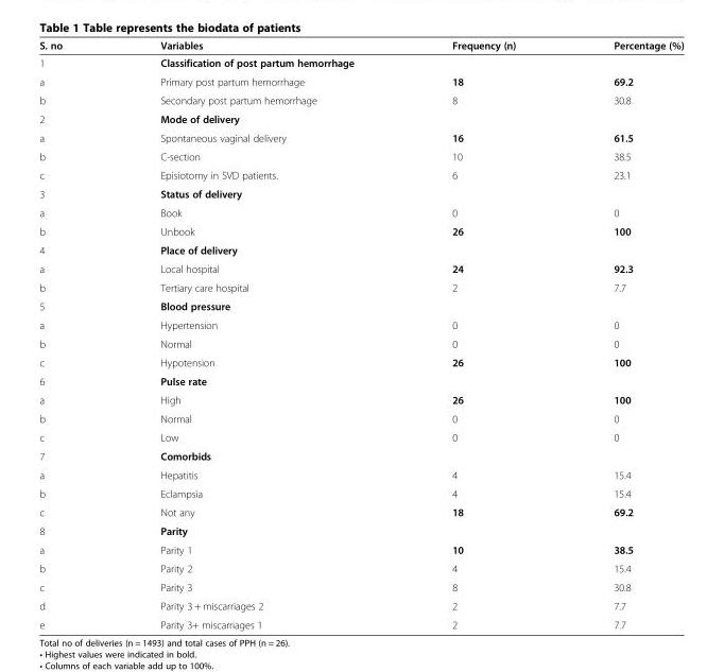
<table><thead><tr><td>S. no</td><td>Variables</td><td>Frequency (n)</td><td>Percentage (%)</td></tr></thead><tbody><tr><td>1</td><td>Classification of post partum hemorrhage</td><td></td><td></td></tr><tr><td>a</td><td>Primary post partum hemorrhage</td><td>18</td><td>69.2</td></tr><tr><td>b</td><td>Secondary post partum hemorrhage</td><td>8</td><td>30.8</td></tr><tr><td>2</td><td>Mode of delivery</td><td></td><td></td></tr><tr><td>a</td><td>Spontaneous vaginal delivery</td><td>16</td><td>61.5</td></tr><tr><td>b</td><td>C-section</td><td>10</td><td>38.5</td></tr><tr><td>c</td><td>Episiotomy in SVD patients.</td><td>6</td><td>23.1</td></tr><tr><td>3</td><td>Status of delivery</td><td></td><td></td></tr><tr><td>a</td><td>Book</td><td>0</td><td>0</td></tr><tr><td>b</td><td>Unbook</td><td>26</td><td>100</td></tr><tr><td>4</td><td>Place of delivery</td><td></td><td></td></tr><tr><td>a</td><td>Local hospital</td><td>24</td><td>92.3</td></tr><tr><td>b</td><td>Tertiary care hospital</td><td>2</td><td>7.7</td></tr><tr><td>5</td><td>Blood pressure</td><td></td><td></td></tr><tr><td>a</td><td>Hypertension</td><td>0</td><td>0</td></tr><tr><td>b</td><td>Normal</td><td>0</td><td>0</td></tr><tr><td>c</td><td>Hypotension</td><td>26</td><td>100</td></tr><tr><td>6</td><td>Pulse rate</td><td></td><td></td></tr><tr><td>a</td><td>High</td><td>26</td><td>100</td></tr><tr><td>b</td><td>Normal</td><td>0</td><td>0</td></tr><tr><td>c</td><td>Low</td><td>0</td><td>0</td></tr><tr><td>7</td><td>Comorbids</td><td></td><td></td></tr><tr><td>a</td><td>Hepatitis</td><td>4</td><td>15.4</td></tr><tr><td>b</td><td>Eclampsia</td><td>4</td><td>15.4</td></tr><tr><td>c</td><td>Not any</td><td>18</td><td>69.2</td></tr><tr><td>8</td><td>Parity</td><td></td><td></td></tr><tr><td>a</td><td>Parity 1</td><td>10</td><td>38.5</td></tr><tr><td>b</td><td>Parity 2</td><td>4</td><td>15.4</td></tr><tr><td>c</td><td>Parity 3</td><td>8</td><td>30.8</td></tr><tr><td>d</td><td>Parity 3 + miscarriages 2</td><td>2</td><td>7.7</td></tr><tr><td>e</td><td>Parity 3+ miscarriages 1</td><td>2</td><td>7.7</td></tr></tbody></table>